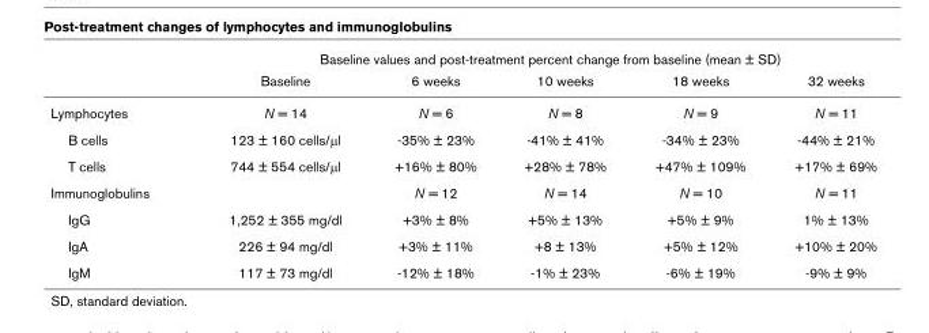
<table><thead><tr><td rowspan="2"></td><td colspan="5">Baseline values and post-treatment percent change from baseline (mean ± SD)</td></tr><tr><td>Baseline</td><td>6 weeks</td><td>10 weeks</td><td>18 weeks</td><td>32 weeks</td></tr></thead><tbody><tr><td>Lymphocytes</td><td>N = 14</td><td>N = 6</td><td>N = 8</td><td>N = 9</td><td>N = 11</td></tr><tr><td>B cells</td><td>123 ± 160 cells/µl</td><td>-35% ± 23%</td><td>-41% ± 41%</td><td>-34% ± 23%</td><td>-44% ± 21%</td></tr><tr><td>T cells</td><td>744 ± 554 cells/µl</td><td>+16% ± 80%</td><td>+28% ± 78%</td><td>+47% ± 109%</td><td>+17% ± 69%</td></tr><tr><td>Immunoglobulins</td><td></td><td>N = 12</td><td>N = 14</td><td>N = 10</td><td>N = 11</td></tr><tr><td>IgG</td><td>1,252 ± 355 mg/dl</td><td>+3% ± 8%</td><td>+5% ± 13%</td><td>+5% ± 9%</td><td>1% ± 13%</td></tr><tr><td>IgA</td><td>226 ± 94 mg/dl</td><td>+3% ± 11%</td><td>+8 ± 13%</td><td>+5% ± 12%</td><td>+10% ± 20%</td></tr><tr><td>IgM</td><td>117 ± 73 mg/dl</td><td>-12% ± 18%</td><td>-1% ± 23%</td><td>-6% ± 19%</td><td>-9% ± 9%</td></tr></tbody></table>